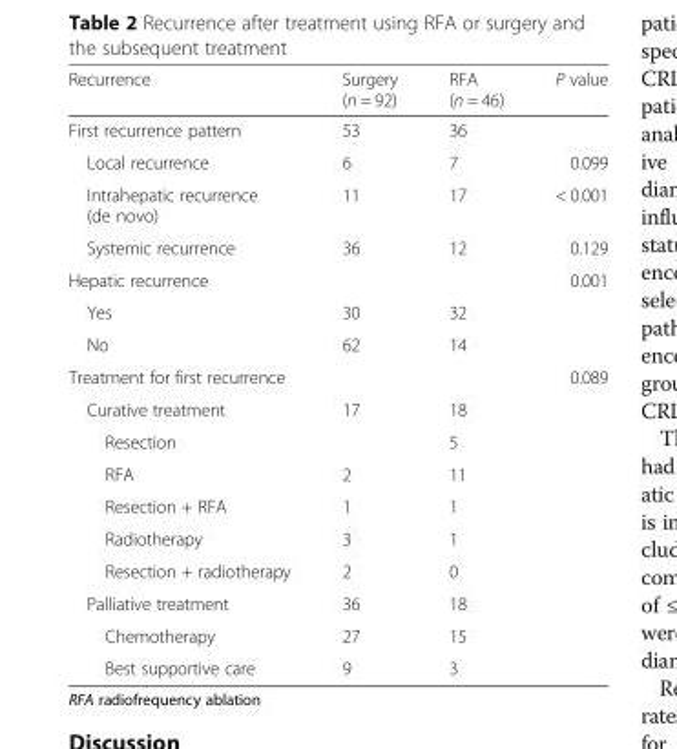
<table><thead><tr><td>Recurrence</td><td>Surgery (n = 92)</td><td>RFA (n = 46)</td><td>P value</td></tr></thead><tbody><tr><td>First recurrence pattern</td><td>53</td><td>36</td><td></td></tr><tr><td>Local recurrence</td><td>6</td><td>7</td><td>0.099</td></tr><tr><td>Intrahepatic recurrence (de novo)</td><td>11</td><td>17</td><td>&lt; 0.001</td></tr><tr><td>Systemic recurrence</td><td>36</td><td>12</td><td>0.129</td></tr><tr><td colspan="3">Hepatic recurrence</td><td>0.001</td></tr><tr><td>Yes</td><td>30</td><td>32</td><td></td></tr><tr><td>No</td><td>62</td><td>14</td><td></td></tr><tr><td colspan="3">Treatment for first recurrence</td><td>0.089</td></tr><tr><td>Curative treatment</td><td>17</td><td>18</td><td></td></tr><tr><td>Resection</td><td></td><td>5</td><td></td></tr><tr><td>RFA</td><td>2</td><td>11</td><td></td></tr><tr><td>Resection + RFA</td><td>1</td><td>1</td><td></td></tr><tr><td>Radiotherapy</td><td>3</td><td>1</td><td></td></tr><tr><td>Resection + radiotherapy</td><td>2</td><td>0</td><td></td></tr><tr><td>Palliative treatment</td><td>36</td><td>18</td><td></td></tr><tr><td>Chemotherapy</td><td>27</td><td>15</td><td></td></tr><tr><td>Best supportive care</td><td>9</td><td>3</td><td></td></tr></tbody></table>